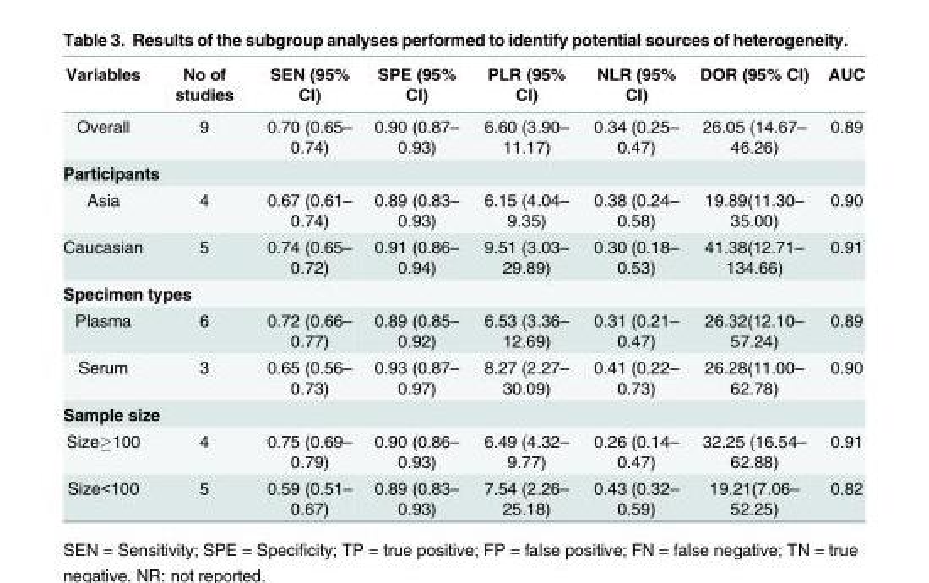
<table><thead><tr><td>Variables</td><td>No of studies</td><td>SEN (95% CI)</td><td>SPE (95% CI)</td><td>PLR (95% CI)</td><td>NLR (95% CI)</td><td>DOR (95% CI)</td><td>AUC</td></tr></thead><tbody><tr><td>Overall</td><td>9</td><td>0.70 (0.65– 0.74)</td><td>0.90 (0.87– 0.93)</td><td>6.60 (3.90– 11.17)</td><td>0.34 (0.25– 0.47)</td><td>26.05 (14.67– 46.26)</td><td>0.89</td></tr><tr><td colspan="8">Participants</td></tr><tr><td>Asia</td><td>4</td><td>0.67 (0.61– 0.74)</td><td>0.89 (0.83– 0.93)</td><td>6.15 (4.04– 9.35)</td><td>0.38 (0.24– 0.58)</td><td>19.89(11.30– 35.00)</td><td>0.90</td></tr><tr><td>Caucasian</td><td>5</td><td>0.74 (0.65– 0.72)</td><td>0.91 (0.86– 0.94)</td><td>9.51 (3.03– 29.89)</td><td>0.30 (0.18– 0.53)</td><td>41.38(12.71– 134.66)</td><td>0.91</td></tr><tr><td colspan="8">Specimen types</td></tr><tr><td>Plasma</td><td>6</td><td>0.72 (0.66– 0.77)</td><td>0.89 (0.85– 0.92)</td><td>6.53 (3.36– 12.69)</td><td>0.31 (0.21– 0.47)</td><td>26.32(12.10– 57.24)</td><td>0.89</td></tr><tr><td>Serum</td><td>3</td><td>0.65 (0.56– 0.73)</td><td>0.93 (0.87– 0.97)</td><td>8.27 (2.27– 30.09)</td><td>0.41 (0.22– 0.73)</td><td>26.28(11.00– 62.78)</td><td>0.90</td></tr><tr><td colspan="8">Sample size</td></tr><tr><td>Size≥100</td><td>4</td><td>0.75 (0.69– 0.79)</td><td>0.90 (0.86– 0.93)</td><td>6.49 (4.32– 9.77)</td><td>0.26 (0.14– 0.47)</td><td>32.25 (16.54– 62.88)</td><td>0.91</td></tr><tr><td>Size&lt;100</td><td>5</td><td>0.59 (0.51– 0.67)</td><td>0.89 (0.83– 0.93)</td><td>7.54 (2.26– 25.18)</td><td>0.43 (0.32– 0.59)</td><td>19.21(7.06– 52.25)</td><td>0.82</td></tr></tbody></table>